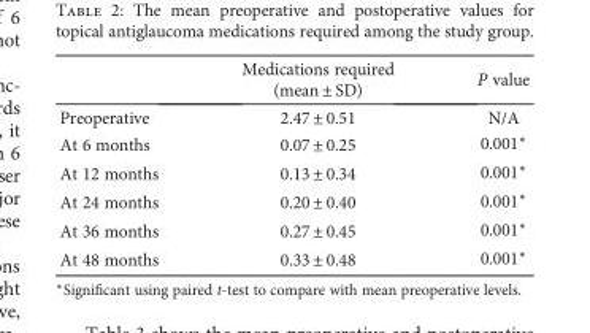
<table><thead><tr><td></td><td>Medications required (mean ± SD)</td><td>P value</td></tr></thead><tbody><tr><td>Preoperative</td><td>2.47 ± 0.51</td><td>N/A</td></tr><tr><td>At 6 months</td><td>0.07 ± 0.25</td><td>0.001∗</td></tr><tr><td>At 12 months</td><td>0.13 ± 0.34</td><td>0.001∗</td></tr><tr><td>At 24 months</td><td>0.20 ± 0.40</td><td>0.001∗</td></tr><tr><td>At 36 months</td><td>0.27 ± 0.45</td><td>0.001∗</td></tr><tr><td>At 48 months</td><td>0.33 ± 0.48</td><td>0.001∗</td></tr></tbody></table>